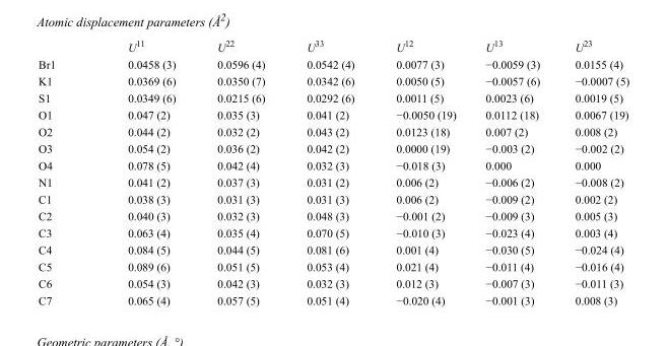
<table><thead><tr><td></td><td>U<sup>11</sup></td><td>U<sup>22</sup></td><td>U<sup>33</sup></td><td>U<sup>12</sup></td><td>U<sup>13</sup></td><td>U<sup>23</sup></td></tr></thead><tbody><tr><td>Br1</td><td>0.0458 (3)</td><td>0.0596 (4)</td><td>0.0542 (4)</td><td>0.0077 (3)</td><td>−0.0059 (3)</td><td>0.0155 (4)</td></tr><tr><td>K1</td><td>0.0369 (6)</td><td>0.0350 (7)</td><td>0.0342 (6)</td><td>0.0050 (5)</td><td>−0.0057 (6)</td><td>−0.0007 (5)</td></tr><tr><td>S1</td><td>0.0349 (6)</td><td>0.0215 (6)</td><td>0.0292 (6)</td><td>0.0011 (5)</td><td>0.0023 (6)</td><td>0.0019 (5)</td></tr><tr><td>O1</td><td>0.047 (2)</td><td>0.035 (3)</td><td>0.041 (2)</td><td>−0.0050 (19)</td><td>0.0112 (18)</td><td>0.0067 (19)</td></tr><tr><td>O2</td><td>0.044 (2)</td><td>0.032 (2)</td><td>0.043 (2)</td><td>0.0123 (18)</td><td>0.007 (2)</td><td>0.008 (2)</td></tr><tr><td>O3</td><td>0.054 (2)</td><td>0.036 (2)</td><td>0.042 (2)</td><td>0.0000 (19)</td><td>−0.003 (2)</td><td>−0.002 (2)</td></tr><tr><td>O4</td><td>0.078 (5)</td><td>0.042 (4)</td><td>0.032 (3)</td><td>−0.018 (3)</td><td>0.000</td><td>0.000</td></tr><tr><td>N1</td><td>0.041 (2)</td><td>0.037 (3)</td><td>0.031 (2)</td><td>0.006 (2)</td><td>−0.006 (2)</td><td>−0.008 (2)</td></tr><tr><td>C1</td><td>0.038 (3)</td><td>0.031 (3)</td><td>0.031 (3)</td><td>0.006 (2)</td><td>−0.009 (2)</td><td>0.002 (2)</td></tr><tr><td>C2</td><td>0.040 (3)</td><td>0.032 (3)</td><td>0.048 (3)</td><td>−0.001 (2)</td><td>−0.009 (3)</td><td>0.005 (3)</td></tr><tr><td>C3</td><td>0.063 (4)</td><td>0.035 (4)</td><td>0.070 (5)</td><td>−0.010 (3)</td><td>−0.023 (4)</td><td>0.003 (4)</td></tr><tr><td>C4</td><td>0.084 (5)</td><td>0.044 (5)</td><td>0.081 (6)</td><td>0.001 (4)</td><td>−0.030 (5)</td><td>−0.024 (4)</td></tr><tr><td>C5</td><td>0.089 (6)</td><td>0.051 (5)</td><td>0.053 (4)</td><td>0.021 (4)</td><td>−0.011 (4)</td><td>−0.016 (4)</td></tr><tr><td>C6</td><td>0.054 (3)</td><td>0.042 (3)</td><td>0.032 (3)</td><td>0.012 (3)</td><td>−0.007 (3)</td><td>−0.011 (3)</td></tr><tr><td>C7</td><td>0.065 (4)</td><td>0.057 (5)</td><td>0.051 (4)</td><td>−0.020 (4)</td><td>−0.001 (3)</td><td>0.008 (3)</td></tr></tbody></table>